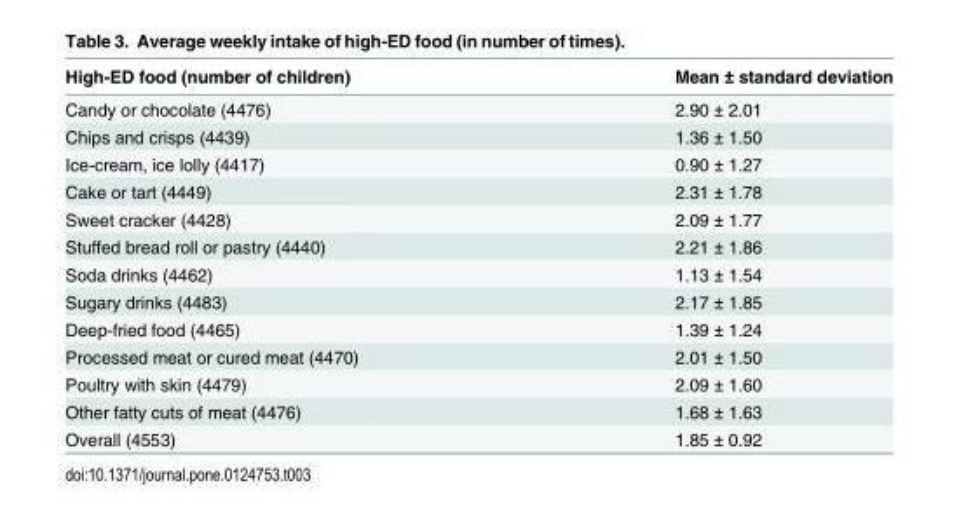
<table><thead><tr><td>High-ED food (number of children)</td><td>Mean ± standard deviation</td></tr></thead><tbody><tr><td>Candy or chocolate (4476)</td><td>2.90 ± 2.01</td></tr><tr><td>Chips and crisps (4439)</td><td>1.36 ± 1.50</td></tr><tr><td>Ice-cream, ice lolly (4417)</td><td>0.90 ± 1.27</td></tr><tr><td>Cake or tart (4449)</td><td>2.31 ± 1.78</td></tr><tr><td>Sweet cracker (4428)</td><td>2.09 ± 1.77</td></tr><tr><td>Stuffed bread roll or pastry (4440)</td><td>2.21 ± 1.86</td></tr><tr><td>Soda drinks (4462)</td><td>1.13 ± 1.54</td></tr><tr><td>Sugary drinks (4483)</td><td>2.17 ± 1.85</td></tr><tr><td>Deep-fried food (4465)</td><td>1.39 ± 1.24</td></tr><tr><td>Processed meat or cured meat (4470)</td><td>2.01 ± 1.50</td></tr><tr><td>Poultry with skin (4479)</td><td>2.09 ± 1.60</td></tr><tr><td>Other fatty cuts of meat (4476)</td><td>1.68 ± 1.63</td></tr><tr><td>Overall (4553)</td><td>1.85 ± 0.92</td></tr></tbody></table>